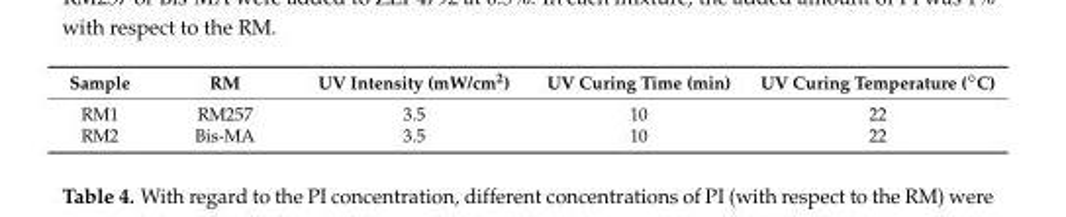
<table><thead><tr><td>Sample</td><td>RM</td><td>UV Intensity (mW/cm<sup>2</sup>)</td><td>UV Curing Time (min)</td><td>UV Curing Temperature (◦C)</td></tr></thead><tbody><tr><td>RM1</td><td>RM257</td><td>3.5</td><td>10</td><td>22</td></tr><tr><td>RM2</td><td>Bis-MA</td><td>3.5</td><td>10</td><td>22</td></tr></tbody></table>